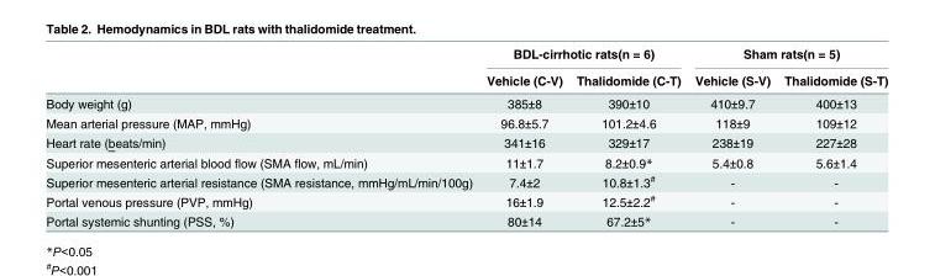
<table><thead><tr><td rowspan="2"></td><td colspan="2">BDL-cirrhotic rats(n = 6)</td><td colspan="2">Sham rats(n = 5)</td></tr><tr><td>Vehicle (C-V)</td><td>Thalidomide (C-T)</td><td>Vehicle (S-V)</td><td>Thalidomide (S-T)</td></tr></thead><tbody><tr><td>Body weight (g)</td><td>385±8</td><td>390±10</td><td>410±9.7</td><td>400±13</td></tr><tr><td>Mean arterial pressure (MAP, mmHg)</td><td>96.8±5.7</td><td>101.2±4.6</td><td>118±9</td><td>109±12</td></tr><tr><td>Heart rate (beats/min)</td><td>341±16</td><td>329±17</td><td>238±19</td><td>227±28</td></tr><tr><td>Superior mesenteric arterial blood flow (SMA flow, mL/min)</td><td>11±1.7</td><td>8.2±0.9*</td><td>5.4±0.8</td><td>5.6±1.4</td></tr><tr><td>Superior mesenteric arterial resistance (SMA resistance, mmHg/mL/min/100g)</td><td>7.4±2</td><td>10.8±1.3<sup>#</sup></td><td>-</td><td>-</td></tr><tr><td>Portal venous pressure (PVP, mmHg)</td><td>16±1.9</td><td>12.5±2.2<sup>#</sup></td><td>-</td><td>-</td></tr><tr><td>Portal systemic shunting (PSS, %)</td><td>80±14</td><td>67.2±5*</td><td>-</td><td>-</td></tr></tbody></table>